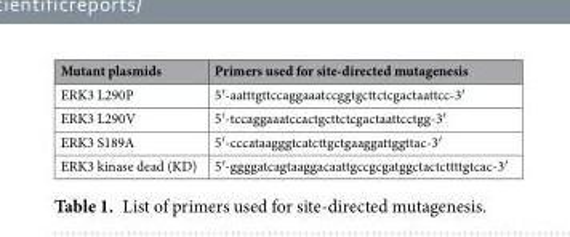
<table><thead><tr><td>Mutant plasmids</td><td>Primers used for site-directed mutagenesis</td></tr></thead><tbody><tr><td>ERK3 L290P</td><td>5′-aatttgttccaggaaatccggtgcttctcgactaattcc-3′</td></tr><tr><td>ERK3 L290V</td><td>5′-tccaggaaatccactgcttctcgactaattcctgg-3′</td></tr><tr><td>ERK3 S189A</td><td>5′-cccataagggtcatcttgctgaaggattggttac-3′</td></tr><tr><td>ERK3 kinase dead (KD)</td><td>5′-ggggatcagtaaggacaattgccgcgatggctactcttttgtcac-3′</td></tr></tbody></table>